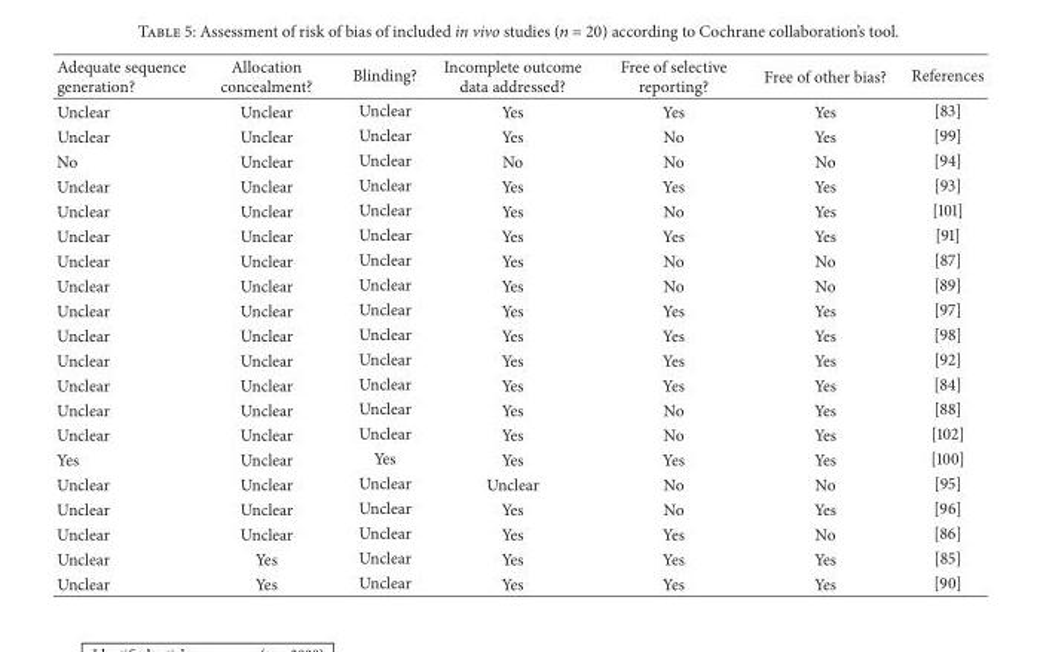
<table><thead><tr><td>Adequate sequence generation?</td><td>Allocation concealment?</td><td>Blinding?</td><td>Incomplete outcome data addressed?</td><td>Free of selective reporting?</td><td>Free of other bias?</td><td>References</td></tr></thead><tbody><tr><td>Unclear</td><td>Unclear</td><td>Unclear</td><td>Yes</td><td>Yes</td><td>Yes</td><td>[83]</td></tr><tr><td>Unclear</td><td>Unclear</td><td>Unclear</td><td>Yes</td><td>No</td><td>Yes</td><td>[99]</td></tr><tr><td>No</td><td>Unclear</td><td>Unclear</td><td>No</td><td>No</td><td>No</td><td>[94]</td></tr><tr><td>Unclear</td><td>Unclear</td><td>Unclear</td><td>Yes</td><td>Yes</td><td>Yes</td><td>[93]</td></tr><tr><td>Unclear</td><td>Unclear</td><td>Unclear</td><td>Yes</td><td>No</td><td>Yes</td><td>[101]</td></tr><tr><td>Unclear</td><td>Unclear</td><td>Unclear</td><td>Yes</td><td>Yes</td><td>Yes</td><td>[91]</td></tr><tr><td>Unclear</td><td>Unclear</td><td>Unclear</td><td>Yes</td><td>No</td><td>No</td><td>[87]</td></tr><tr><td>Unclear</td><td>Unclear</td><td>Unclear</td><td>Yes</td><td>No</td><td>No</td><td>[89]</td></tr><tr><td>Unclear</td><td>Unclear</td><td>Unclear</td><td>Yes</td><td>Yes</td><td>Yes</td><td>[97]</td></tr><tr><td>Unclear</td><td>Unclear</td><td>Unclear</td><td>Yes</td><td>Yes</td><td>Yes</td><td>[98]</td></tr><tr><td>Unclear</td><td>Unclear</td><td>Unclear</td><td>Yes</td><td>Yes</td><td>Yes</td><td>[92]</td></tr><tr><td>Unclear</td><td>Unclear</td><td>Unclear</td><td>Yes</td><td>Yes</td><td>Yes</td><td>[84]</td></tr><tr><td>Unclear</td><td>Unclear</td><td>Unclear</td><td>Yes</td><td>No</td><td>Yes</td><td>[88]</td></tr><tr><td>Unclear</td><td>Unclear</td><td>Unclear</td><td>Yes</td><td>No</td><td>Yes</td><td>[102]</td></tr><tr><td>Yes</td><td>Unclear</td><td>Yes</td><td>Yes</td><td>Yes</td><td>Yes</td><td>[100]</td></tr><tr><td>Unclear</td><td>Unclear</td><td>Unclear</td><td>Unclear</td><td>No</td><td>No</td><td>[95]</td></tr><tr><td>Unclear</td><td>Unclear</td><td>Unclear</td><td>Yes</td><td>No</td><td>Yes</td><td>[96]</td></tr><tr><td>Unclear</td><td>Unclear</td><td>Unclear</td><td>Yes</td><td>Yes</td><td>No</td><td>[86]</td></tr><tr><td>Unclear</td><td>Yes</td><td>Unclear</td><td>Yes</td><td>Yes</td><td>Yes</td><td>[85]</td></tr><tr><td>Unclear</td><td>Yes</td><td>Unclear</td><td>Yes</td><td>Yes</td><td>Yes</td><td>[90]</td></tr></tbody></table>